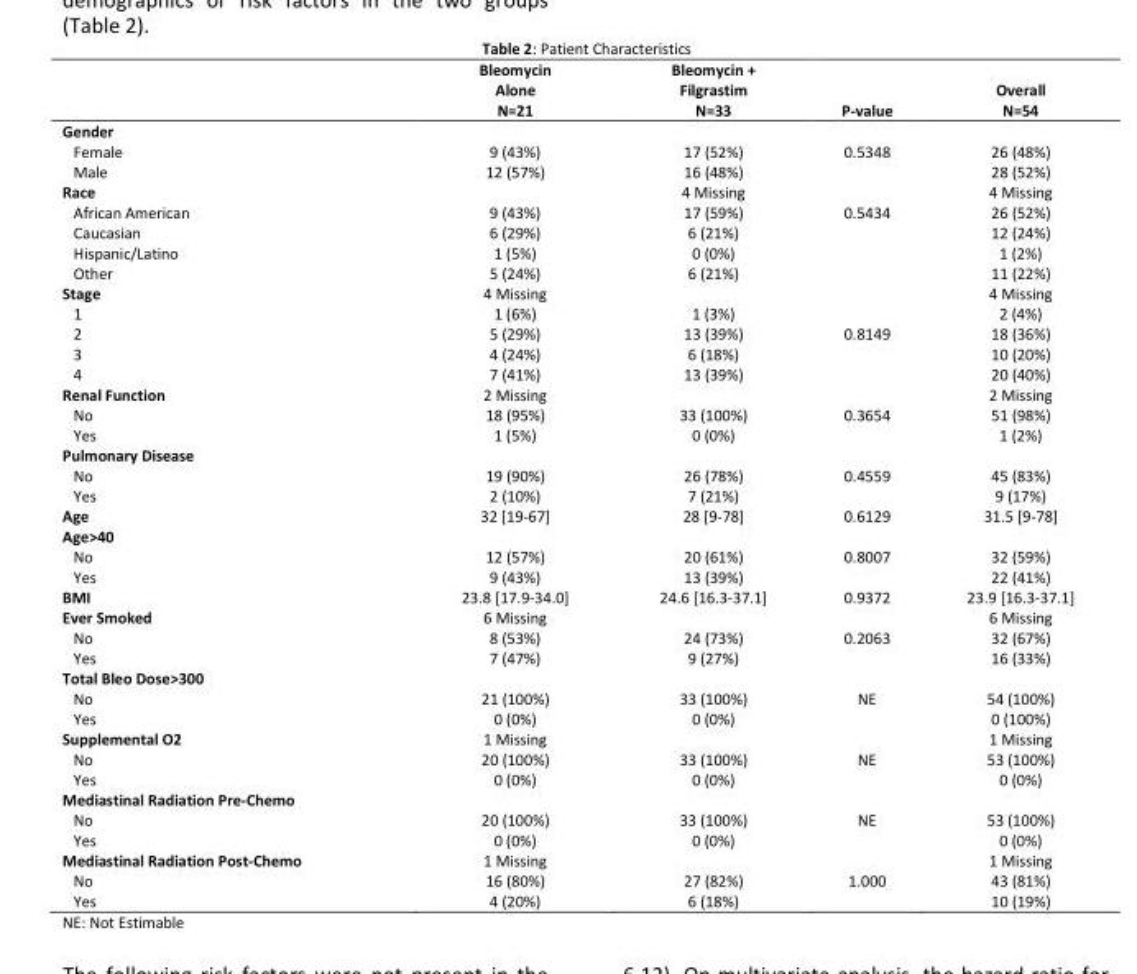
<table><thead><tr><td></td><td>Bleomycin Alone N=21</td><td>Bleomycin + Filgrastim N=33</td><td>P-value</td><td>Overall N=54</td></tr></thead><tbody><tr><td>Gender Female Male</td><td>9 (43%) 12 (57%)</td><td>17 (52%) 16 (48%)</td><td>0.5348</td><td>26 (48%) 28 (52%)</td></tr><tr><td>Race African American Caucasian Hispanic/Latino Other</td><td>9 (43%) 6 (29%) 1 (5%) 5 (24%)</td><td>4 Missing 17 (59%) 6 (21%) 0 (0%) 6 (21%)</td><td>0.5434</td><td>4 Missing 26 (52%) 12 (24%) 1 (2%) 11 (22%)</td></tr><tr><td>Stage 1 2 3 4</td><td>4 Missing 1 (6%) 5 (29%) 4 (24%) 7 (41%)</td><td>1 (3%) 13 (39%) 6 (18%) 13 (39%)</td><td>0.8149</td><td>4 Missing 2 (4%) 18 (36%) 10 (20%) 20 (40%)</td></tr><tr><td>Renal Function No Yes</td><td>2 Missing 18 (95%) 1 (5%)</td><td>33 (100%) 0 (0%)</td><td>0.3654</td><td>2 Missing 51 (98%) 1 (2%)</td></tr><tr><td>Pulmonary Disease No Yes</td><td>19 (90%) 2 (10%)</td><td>26 (78%) 7 (21%)</td><td>0.4559</td><td>45 (83%) 9 (17%)</td></tr><tr><td>Age</td><td>32 [19-67]</td><td>28 [9-78]</td><td>0.6129</td><td>31.5 [9-78]</td></tr><tr><td>Age&gt;40 No Yes</td><td>12 (57%) 9 (43%)</td><td>20 (61%) 13 (39%)</td><td>0.8007</td><td>32 (59%) 22 (41%)</td></tr><tr><td>BMI</td><td>23.8 [17.9-34.0]</td><td>24.6 [16.3-37.1]</td><td>0.9372</td><td>23.9 [16.3-37.1]</td></tr><tr><td>Ever Smoked No Yes</td><td>6 Missing 8 (53%) 7 (47%)</td><td>24 (73%) 9 (27%)</td><td>0.2063</td><td>6 Missing 32 (67%) 16 (33%)</td></tr><tr><td>Total Bleo Dose&gt;300 No Yes</td><td>21 (100%) 0 (0%)</td><td>33 (100%) 0 (0%)</td><td>NE</td><td>54 (100%) 0 (100%)</td></tr><tr><td>Supplemental O2 No Yes</td><td>1 Missing 20 (100%) 0 (0%)</td><td>33 (100%) 0 (0%)</td><td>NE</td><td>1 Missing 53 (100%) 0 (0%)</td></tr><tr><td>Mediastinal Radiation Pre-Chemo No Yes</td><td>20 (100%) 0 (0%)</td><td>33 (100%) 0 (0%)</td><td>NE</td><td>53 (100%) 0 (0%)</td></tr><tr><td>Mediastinal Radiation Post-Chemo No Yes</td><td>1 Missing 16 (80%) 4 (20%)</td><td>27 (82%) 6 (18%)</td><td>1.000</td><td>1 Missing 43 (81%) 10 (19%)</td></tr></tbody></table>